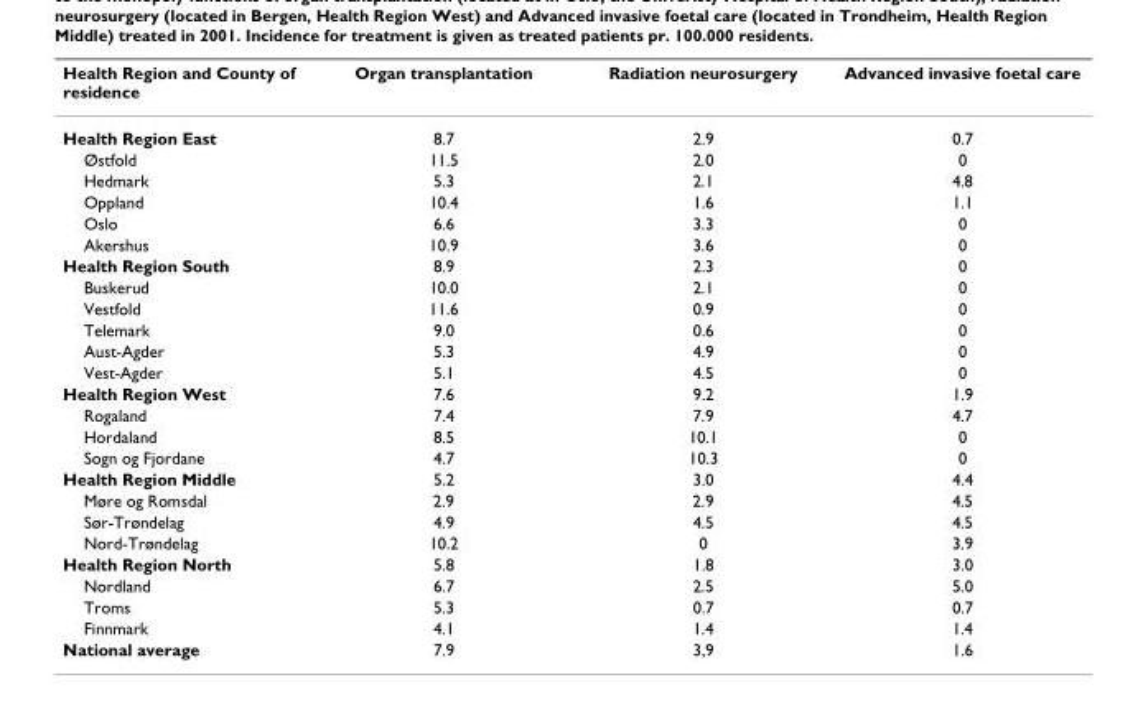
<table><thead><tr><td>Health Region and County of residence</td><td>Organ transplantation</td><td>Radiation neurosurgery</td><td>Advanced invasive foetal care</td></tr></thead><tbody><tr><td>Health Region East</td><td>8.7</td><td>2.9</td><td>0.7</td></tr><tr><td>Østfold</td><td>11.5</td><td>2.0</td><td>0</td></tr><tr><td>Hedmark</td><td>5.3</td><td>2.1</td><td>4.8</td></tr><tr><td>Oppland</td><td>10.4</td><td>1.6</td><td>1.1</td></tr><tr><td>Oslo</td><td>6.6</td><td>3.3</td><td>0</td></tr><tr><td>Akershus</td><td>10.9</td><td>3.6</td><td>0</td></tr><tr><td>Health Region South</td><td>8.9</td><td>2.3</td><td>0</td></tr><tr><td>Buskerud</td><td>10.0</td><td>2.1</td><td>0</td></tr><tr><td>Vestfold</td><td>11.6</td><td>0.9</td><td>0</td></tr><tr><td>Telemark</td><td>9.0</td><td>0.6</td><td>0</td></tr><tr><td>Aust-Agder</td><td>5.3</td><td>4.9</td><td>0</td></tr><tr><td>Vest-Agder</td><td>5.1</td><td>4.5</td><td>0</td></tr><tr><td>Health Region West</td><td>7.6</td><td>9.2</td><td>1.9</td></tr><tr><td>Rogaland</td><td>7.4</td><td>7.9</td><td>4.7</td></tr><tr><td>Hordaland</td><td>8.5</td><td>10.1</td><td>0</td></tr><tr><td>Sogn og Fjordane</td><td>4.7</td><td>10.3</td><td>0</td></tr><tr><td>Health Region Middle</td><td>5.2</td><td>3.0</td><td>4.4</td></tr><tr><td>Møre og Romsdal</td><td>2.9</td><td>2.9</td><td>4.5</td></tr><tr><td>Sør-Trøndelag</td><td>4.9</td><td>4.5</td><td>4.5</td></tr><tr><td>Nord-Trøndelag</td><td>10.2</td><td>0</td><td>3.9</td></tr><tr><td>Health Region North</td><td>5.8</td><td>1.8</td><td>3.0</td></tr><tr><td>Nordland</td><td>6.7</td><td>2.5</td><td>5.0</td></tr><tr><td>Troms</td><td>5.3</td><td>0.7</td><td>0.7</td></tr><tr><td>Finnmark</td><td>4.1</td><td>1.4</td><td>1.4</td></tr><tr><td>National average</td><td>7.9</td><td>3,9</td><td>1.6</td></tr></tbody></table>